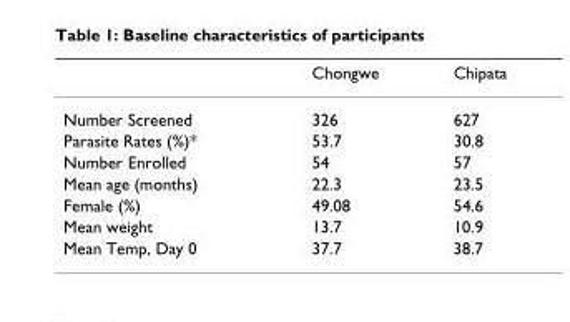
<table><thead><tr><td></td><td>Chongwe</td><td>Chipata</td></tr></thead><tbody><tr><td>Number Screened</td><td>326</td><td>627</td></tr><tr><td>Parasite Rates (%)*</td><td>53.7</td><td>30.8</td></tr><tr><td>Number Enrolled</td><td>54</td><td>57</td></tr><tr><td>Mean age (months)</td><td>22.3</td><td>23.5</td></tr><tr><td>Female (%)</td><td>49.08</td><td>54.6</td></tr><tr><td>Mean weight</td><td>13.7</td><td>10.9</td></tr><tr><td>Mean Temp, Day 0</td><td>37.7</td><td>38.7</td></tr></tbody></table>